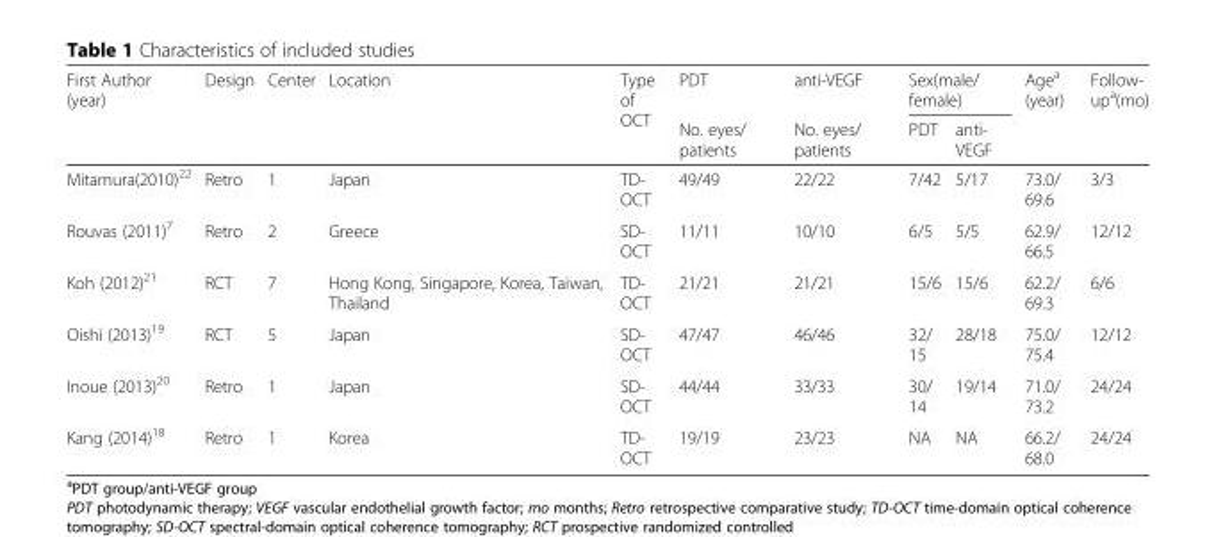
<table><thead><tr><td rowspan="2">First Author (year)</td><td rowspan="2">Design</td><td rowspan="2">Center</td><td rowspan="2">Location</td><td rowspan="2">Type of OCT</td><td rowspan="2">PDT No. eyes/ patients</td><td rowspan="2">anti-VEGF No. eyes/ patients</td><td colspan="2">Sex(male/ female)</td><td rowspan="2">Age<sup>a</sup> (year)</td><td rowspan="2">Follow- up<sup>a</sup>(mo)</td></tr><tr><td>PDT</td><td>anti- VEGF</td></tr></thead><tbody><tr><td>Mitamura(2010)<sup>22</sup></td><td>Retro</td><td>1</td><td>Japan</td><td>TD- OCT</td><td>49/49</td><td>22/22</td><td>7/42</td><td>5/17</td><td>73.0/ 69.6</td><td>3/3</td></tr><tr><td>Rouvas (2011)<sup>7</sup></td><td>Retro</td><td>2</td><td>Greece</td><td>SD- OCT</td><td>11/11</td><td>10/10</td><td>6/5</td><td>5/5</td><td>62.9/ 66.5</td><td>12/12</td></tr><tr><td>Koh (2012)<sup>21</sup></td><td>RCT</td><td>7</td><td>Hong Kong, Singapore, Korea, Taiwan, Thailand</td><td>TD- OCT</td><td>21/21</td><td>21/21</td><td>15/6</td><td>15/6</td><td>62.2/ 69.3</td><td>6/6</td></tr><tr><td>Oishi (2013)<sup>19</sup></td><td>RCT</td><td>5</td><td>Japan</td><td>SD- OCT</td><td>47/47</td><td>46/46</td><td>32/ 15</td><td>28/18</td><td>75.0/ 75.4</td><td>12/12</td></tr><tr><td>Inoue (2013)<sup>20</sup></td><td>Retro</td><td>1</td><td>Japan</td><td>SD- OCT</td><td>44/44</td><td>33/33</td><td>30/ 14</td><td>19/14</td><td>71.0/ 73.2</td><td>24/24</td></tr><tr><td>Kang (2014)<sup>18</sup></td><td>Retro</td><td>1</td><td>Korea</td><td>TD- OCT</td><td>19/19</td><td>23/23</td><td>NA</td><td>NA</td><td>66.2/ 68.0</td><td>24/24</td></tr></tbody></table>